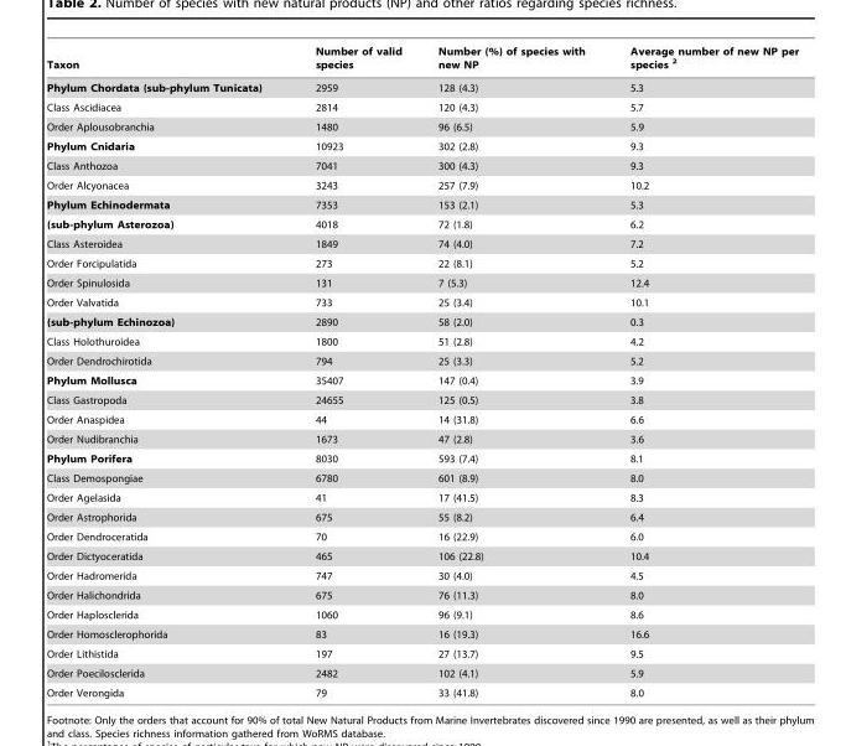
<table><thead><tr><td>Taxon</td><td>Number of valid species</td><td>Number (%) of species with new NP</td><td>Average number of new NP per species 2</td></tr></thead><tbody><tr><td>Phylum Chordata (sub-phylum Tunicata)</td><td>2959</td><td>128 (4.3)</td><td>5.3</td></tr><tr><td>Class Ascidiacea</td><td>2814</td><td>120 (4.3)</td><td>5.7</td></tr><tr><td>Order Aplousobranchia</td><td>1480</td><td>96 (6.5)</td><td>5.9</td></tr><tr><td>Phylum Cnidaria</td><td>10923</td><td>302 (2.8)</td><td>9.3</td></tr><tr><td>Class Anthozoa</td><td>7041</td><td>300 (4.3)</td><td>9.3</td></tr><tr><td>Order Alcyonacea</td><td>3243</td><td>257 (7.9)</td><td>10.2</td></tr><tr><td>Phylum Echinodermata</td><td>7353</td><td>153 (2.1)</td><td>5.3</td></tr><tr><td>(sub-phylum Asterozoa)</td><td>4018</td><td>72 (1.8)</td><td>6.2</td></tr><tr><td>Class Asteroidea</td><td>1849</td><td>74 (4.0)</td><td>7.2</td></tr><tr><td>Order Forcipulatida</td><td>273</td><td>22 (8.1)</td><td>5.2</td></tr><tr><td>Order Spinulosida</td><td>131</td><td>7 (5.3)</td><td>12.4</td></tr><tr><td>Order Valvatida</td><td>733</td><td>25 (3.4)</td><td>10.1</td></tr><tr><td>(sub-phylum Echinozoa)</td><td>2890</td><td>58 (2.0)</td><td>0.3</td></tr><tr><td>Class Holothuroidea</td><td>1800</td><td>51 (2.8)</td><td>4.2</td></tr><tr><td>Order Dendrochirotida</td><td>794</td><td>25 (3.3)</td><td>5.2</td></tr><tr><td>Phylum Mollusca</td><td>35407</td><td>147 (0.4)</td><td>3.9</td></tr><tr><td>Class Gastropoda</td><td>24655</td><td>125 (0.5)</td><td>3.8</td></tr><tr><td>Order Anaspidea</td><td>44</td><td>14 (31.8)</td><td>6.6</td></tr><tr><td>Order Nudibranchia</td><td>1673</td><td>47 (2.8)</td><td>3.6</td></tr><tr><td>Phylum Porifera</td><td>8030</td><td>593 (7.4)</td><td>8.1</td></tr><tr><td>Class Demospongiae</td><td>6780</td><td>601 (8.9)</td><td>8.0</td></tr><tr><td>Order Agelasida</td><td>41</td><td>17 (41.5)</td><td>8.3</td></tr><tr><td>Order Astrophorida</td><td>675</td><td>55 (8.2)</td><td>6.4</td></tr><tr><td>Order Dendroceratida</td><td>70</td><td>16 (22.9)</td><td>6.0</td></tr><tr><td>Order Dictyoceratida</td><td>465</td><td>106 (22.8)</td><td>10.4</td></tr><tr><td>Order Hadromerida</td><td>747</td><td>30 (4.0)</td><td>4.5</td></tr><tr><td>Order Halichondrida</td><td>675</td><td>76 (11.3)</td><td>8.0</td></tr><tr><td>Order Haplosclerida</td><td>1060</td><td>96 (9.1)</td><td>8.6</td></tr><tr><td>Order Homosclerophorida</td><td>83</td><td>16 (19.3)</td><td>16.6</td></tr><tr><td>Order Lithistida</td><td>197</td><td>27 (13.7)</td><td>9.5</td></tr><tr><td>Order Poecilosclerida</td><td>2482</td><td>102 (4.1)</td><td>5.9</td></tr><tr><td>Order Verongida</td><td>79</td><td>33 (41.8)</td><td>8.0</td></tr></tbody></table>